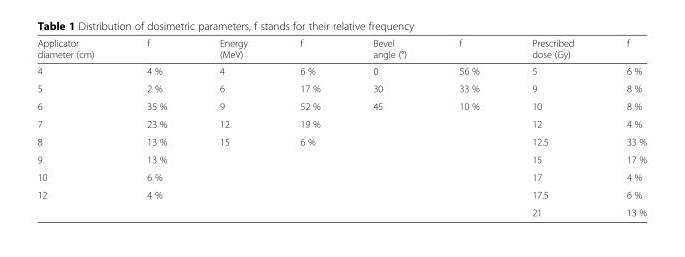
<table><thead><tr><td>Applicator diameter (cm)</td><td>f</td><td>Energy (MeV)</td><td>f</td><td>Bevel angle (°)</td><td>f</td><td>Prescribed dose (Gy)</td><td>f</td></tr></thead><tbody><tr><td>4</td><td>4 %</td><td>4</td><td>6 %</td><td>0</td><td>56 %</td><td>5</td><td>6 %</td></tr><tr><td>5</td><td>2 %</td><td>6</td><td>17 %</td><td>30</td><td>33 %</td><td>9</td><td>8 %</td></tr><tr><td>6</td><td>35 %</td><td>9</td><td>52 %</td><td>45</td><td>10 %</td><td>10</td><td>8 %</td></tr><tr><td>7</td><td>23 %</td><td>12</td><td>19 %</td><td></td><td></td><td>12</td><td>4 %</td></tr><tr><td>8</td><td>13 %</td><td>15</td><td>6 %</td><td></td><td></td><td>12.5</td><td>33 %</td></tr><tr><td>9</td><td>13 %</td><td></td><td></td><td></td><td></td><td>15</td><td>17 %</td></tr><tr><td>10</td><td>6 %</td><td></td><td></td><td></td><td></td><td>17</td><td>4 %</td></tr><tr><td rowspan="2">12</td><td>4 %</td><td></td><td></td><td></td><td></td><td>17.5</td><td>6 %</td></tr><tr><td></td><td></td><td></td><td></td><td></td><td>21</td><td>13 %</td></tr></tbody></table>